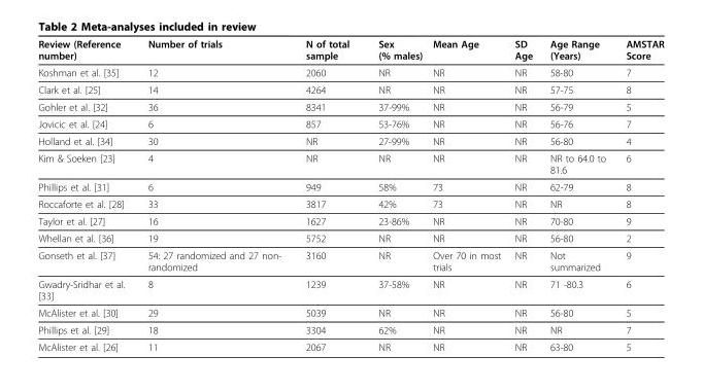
<table><thead><tr><td>Review (Reference number)</td><td>Number of trials</td><td>N of total sample</td><td>Sex (% males)</td><td>Mean Age</td><td>SD Age</td><td>Age Range (Years)</td><td>AMSTAR Score</td></tr></thead><tbody><tr><td>Koshman et al. [35]</td><td>12</td><td>2060</td><td>NR</td><td>NR</td><td>NR</td><td>58-80</td><td>7</td></tr><tr><td>Clark et al. [25]</td><td>14</td><td>4264</td><td>NR</td><td>NR</td><td>NR</td><td>57-75</td><td>8</td></tr><tr><td>Gohler et al. [32]</td><td>36</td><td>8341</td><td>37-99%</td><td>NR</td><td>NR</td><td>56-79</td><td>5</td></tr><tr><td>Jovicic et al. [24]</td><td>6</td><td>857</td><td>53-76%</td><td>NR</td><td>NR</td><td>56-76</td><td>7</td></tr><tr><td>Holland et al. [34]</td><td>30</td><td>NR</td><td>27-99%</td><td>NR</td><td>NR</td><td>56-80</td><td>4</td></tr><tr><td>Kim &amp; Soeken [23]</td><td>4</td><td>NR</td><td>NR</td><td>NR</td><td>NR</td><td>NR to 64.0 to 81.6</td><td>6</td></tr><tr><td>Phillips et al. [31]</td><td>6</td><td>949</td><td>58%</td><td>73</td><td>NR</td><td>62-79</td><td>8</td></tr><tr><td>Roccaforte et al. [28]</td><td>33</td><td>3817</td><td>42%</td><td>73</td><td>NR</td><td>NR</td><td>8</td></tr><tr><td>Taylor et al. [27]</td><td>16</td><td>1627</td><td>23-86%</td><td>NR</td><td>NR</td><td>70-80</td><td>9</td></tr><tr><td>Whellan et al. [36]</td><td>19</td><td>5752</td><td>NR</td><td>NR</td><td>NR</td><td>56-80</td><td>2</td></tr><tr><td>Gonseth et al. [37]</td><td>54: 27 randomized and 27 non- randomized</td><td>3160</td><td>NR</td><td>Over 70 in most trials</td><td>NR</td><td>Not summarized</td><td>9</td></tr><tr><td>Gwadry-Sridhar et al. [33]</td><td>8</td><td>1239</td><td>37-58%</td><td>NR</td><td>NR</td><td>71 -80.3</td><td>6</td></tr><tr><td>McAlister et al. [30]</td><td>29</td><td>5039</td><td>NR</td><td>NR</td><td>NR</td><td>56-80</td><td>5</td></tr><tr><td>Phillips et al. [29]</td><td>18</td><td>3304</td><td>62%</td><td>NR</td><td>NR</td><td>NR</td><td>7</td></tr><tr><td>McAlister et al. [26]</td><td>11</td><td>2067</td><td>NR</td><td>NR</td><td>NR</td><td>63-80</td><td>5</td></tr></tbody></table>